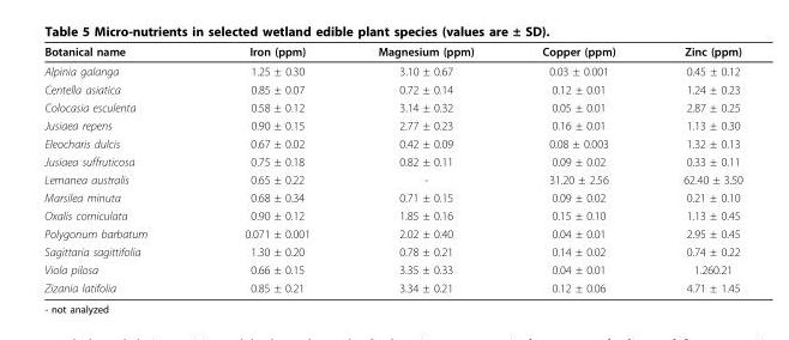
<table><thead><tr><td>Botanical name</td><td>Iron (ppm)</td><td>Magnesium (ppm)</td><td>Copper (ppm)</td><td>Zinc (ppm)</td></tr></thead><tbody><tr><td>Alpinia galanga</td><td>1.25 ± 0.30</td><td>3.10 ± 0.67</td><td>0.03 ± 0.001</td><td>0.45 ± 0.12</td></tr><tr><td>Centella asiatica</td><td>0.85 ± 0.07</td><td>0.72 ± 0.14</td><td>0.12 ± 0.01</td><td>1.24 ± 0.23</td></tr><tr><td>Colocasia esculenta</td><td>0.58 ± 0.12</td><td>3.14 ± 0.32</td><td>0.05 ± 0.01</td><td>2.87 ± 0.25</td></tr><tr><td>Jusiaea repens</td><td>0.90 ± 0.15</td><td>2.77 ± 0.23</td><td>0.16 ± 0.01</td><td>1.13 ± 0.30</td></tr><tr><td>Eleocharis dulcis</td><td>0.67 ± 0.02</td><td>0.42 ± 0.09</td><td>0.08 ± 0.003</td><td>1.32 ± 0.13</td></tr><tr><td>Jusiaea suffruticosa</td><td>0.75 ± 0.18</td><td>0.82 ± 0.11</td><td>0.09 ± 0.02</td><td>0.33 ± 0.11</td></tr><tr><td>Lemanea australis</td><td>0.65 ± 0.22</td><td>-</td><td>31.20 ± 2.56</td><td>62.40 ± 3.50</td></tr><tr><td>Marsilea minuta</td><td>0.68 ± 0.34</td><td>0.71 ± 0.15</td><td>0.09 ± 0.02</td><td>0.21 ± 0.10</td></tr><tr><td>Oxalis corniculata</td><td>0.90 ± 0.12</td><td>1.85 ± 0.16</td><td>0.15 ± 0.10</td><td>1.13 ± 0.45</td></tr><tr><td>Polygonum barbatum</td><td>0.071 ± 0.001</td><td>2.02 ± 0.40</td><td>0.04 ± 0.01</td><td>2.95 ± 0.45</td></tr><tr><td>Sagittaria sagittifolia</td><td>1.30 ± 0.20</td><td>0.78 ± 0.21</td><td>0.14 ± 0.02</td><td>0.74 ± 0.22</td></tr><tr><td>Viola pilosa</td><td>0.66 ± 0.15</td><td>3.35 ± 0.33</td><td>0.04 ± 0.01</td><td>1.260.21</td></tr><tr><td>Zizania latifolia</td><td>0.85 ± 0.21</td><td>3.34 ± 0.21</td><td>0.12 ± 0.06</td><td>4.71 ± 1.45</td></tr></tbody></table>